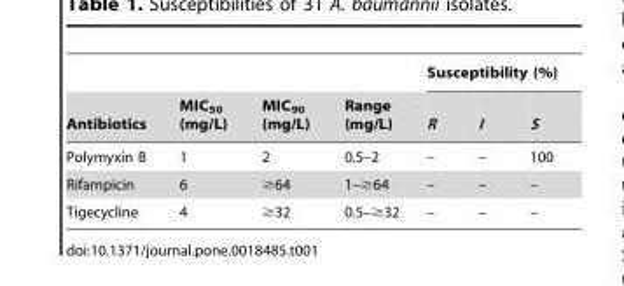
<table><thead><tr><td rowspan="2">Antibiotics</td><td rowspan="2">MIC<sub>50</sub> (mg/L)</td><td rowspan="2">MIC<sub>90</sub> (mg/L)</td><td rowspan="2">Range (mg/L)</td><td colspan="3">Susceptibility (%)</td></tr><tr><td>R</td><td>I</td><td>S</td></tr></thead><tbody><tr><td>Polymyxin B</td><td>1</td><td>2</td><td>0.5–2</td><td>–</td><td>–</td><td>100</td></tr><tr><td>Rifampicin</td><td>6</td><td>≥64</td><td>1–≥64</td><td>–</td><td>–</td><td>–</td></tr><tr><td>Tigecycline</td><td>4</td><td>≥32</td><td>0.5–≥32</td><td>–</td><td>–</td><td>–</td></tr></tbody></table>